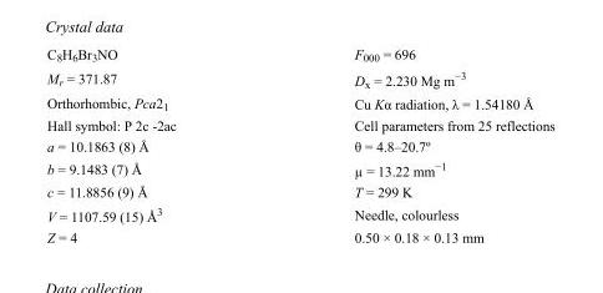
<table><tbody><tr><td>C<sub>8</sub>H<sub>6</sub>Br<sub>3</sub>NO</td><td>F000 = 696</td></tr><tr><td>M<sub>r</sub> = 371.87</td><td>D<sub>x</sub> = 2.230 Mg m<sup>−3</sup></td></tr><tr><td>Orthorhombic, Pca2<sub>1</sub></td><td>Cu Kα radiation, λ = 1.54180 Å</td></tr><tr><td>Hall symbol: P 2c -2ac</td><td>Cell parameters from 25 reflections</td></tr><tr><td>a = 10.1863 (8) Å</td><td>θ = 4.8–20.7º</td></tr><tr><td>b = 9.1483 (7) Å</td><td>µ = 13.22 mm<sup>−1</sup></td></tr><tr><td>c = 11.8856 (9) Å</td><td>T = 299 K</td></tr><tr><td>V = 1107.59 (15) Å<sup>3</sup></td><td>Needle, colourless</td></tr><tr><td>Z = 4</td><td>0.50 × 0.18 × 0.13 mm</td></tr></tbody></table>